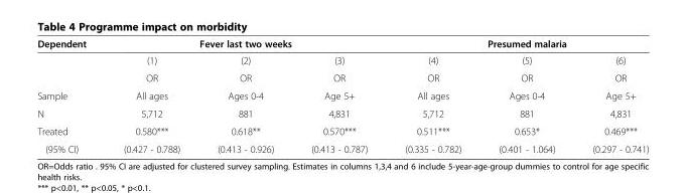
<table><thead><tr><td rowspan="2">Dependent</td><td colspan="3">Fever last two weeks</td><td colspan="3">Presumed malaria</td></tr><tr><td>(1)</td><td>(2)</td><td>(3)</td><td>(4)</td><td>(5)</td><td>(6)</td></tr></thead><tbody><tr><td></td><td>OR</td><td>OR</td><td>OR</td><td>OR</td><td>OR</td><td>OR</td></tr><tr><td>Sample</td><td>All ages</td><td>Ages 0-4</td><td>Age 5+</td><td>All ages</td><td>Ages 0-4</td><td>Age 5+</td></tr><tr><td>N</td><td>5,712</td><td>881</td><td>4,831</td><td>5,712</td><td>881</td><td>4,831</td></tr><tr><td>Treated</td><td>0.580***</td><td>0.618**</td><td>0.570***</td><td>0.511***</td><td>0.653*</td><td>0.469***</td></tr><tr><td>(95% CI)</td><td>(0.427 - 0.788)</td><td>(0.413 - 0.926)</td><td>(0.413 - 0.787)</td><td>(0.335 - 0.782)</td><td>(0.401 - 1.064)</td><td>(0.297 - 0.741)</td></tr></tbody></table>